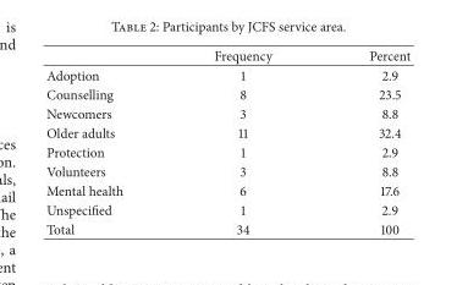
<table><thead><tr><td></td><td>Frequency</td><td>Percent</td></tr></thead><tbody><tr><td>Adoption</td><td>1</td><td>2.9</td></tr><tr><td>Counselling</td><td>8</td><td>23.5</td></tr><tr><td>Newcomers</td><td>3</td><td>8.8</td></tr><tr><td>Older adults</td><td>11</td><td>32.4</td></tr><tr><td>Protection</td><td>1</td><td>2.9</td></tr><tr><td>Volunteers</td><td>3</td><td>8.8</td></tr><tr><td>Mental health</td><td>6</td><td>17.6</td></tr><tr><td>Unspecified</td><td>1</td><td>2.9</td></tr><tr><td>Total</td><td>34</td><td>100</td></tr></tbody></table>